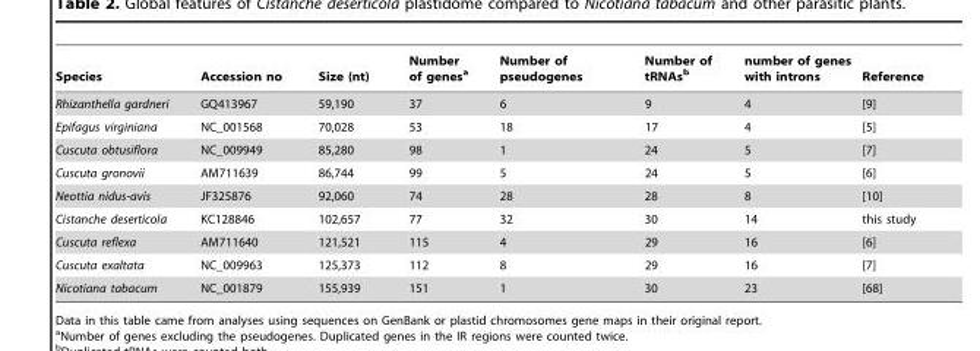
<table><thead><tr><td>Species</td><td>Accession no</td><td>Size (nt)</td><td>Number of genes<sup>a</sup></td><td>Number of pseudogenes</td><td>Number of tRNAs<sup>b</sup></td><td>number of genes with introns</td><td>Reference</td></tr></thead><tbody><tr><td>Rhizanthella gardneri</td><td>GQ413967</td><td>59,190</td><td>37</td><td>6</td><td>9</td><td>4</td><td>[9]</td></tr><tr><td>Epifagus virginiana</td><td>NC_001568</td><td>70,028</td><td>53</td><td>18</td><td>17</td><td>4</td><td>[5]</td></tr><tr><td>Cuscuta obtusiflora</td><td>NC_009949</td><td>85,280</td><td>98</td><td>1</td><td>24</td><td>5</td><td>[7]</td></tr><tr><td>Cuscuta gronovii</td><td>AM711639</td><td>86,744</td><td>99</td><td>5</td><td>24</td><td>5</td><td>[6]</td></tr><tr><td>Neottia nidus-avis</td><td>JF325876</td><td>92,060</td><td>74</td><td>28</td><td>28</td><td>8</td><td>[10]</td></tr><tr><td>Cistanche deserticola</td><td>KC128846</td><td>102,657</td><td>77</td><td>32</td><td>30</td><td>14</td><td>this study</td></tr><tr><td>Cuscuta reflexa</td><td>AM711640</td><td>121,521</td><td>115</td><td>4</td><td>29</td><td>16</td><td>[6]</td></tr><tr><td>Cuscuta exaltata</td><td>NC_009963</td><td>125,373</td><td>112</td><td>8</td><td>29</td><td>16</td><td>[7]</td></tr><tr><td>Nicotiana tabacum</td><td>NC_001879</td><td>155,939</td><td>151</td><td>1</td><td>30</td><td>23</td><td>[68]</td></tr></tbody></table>